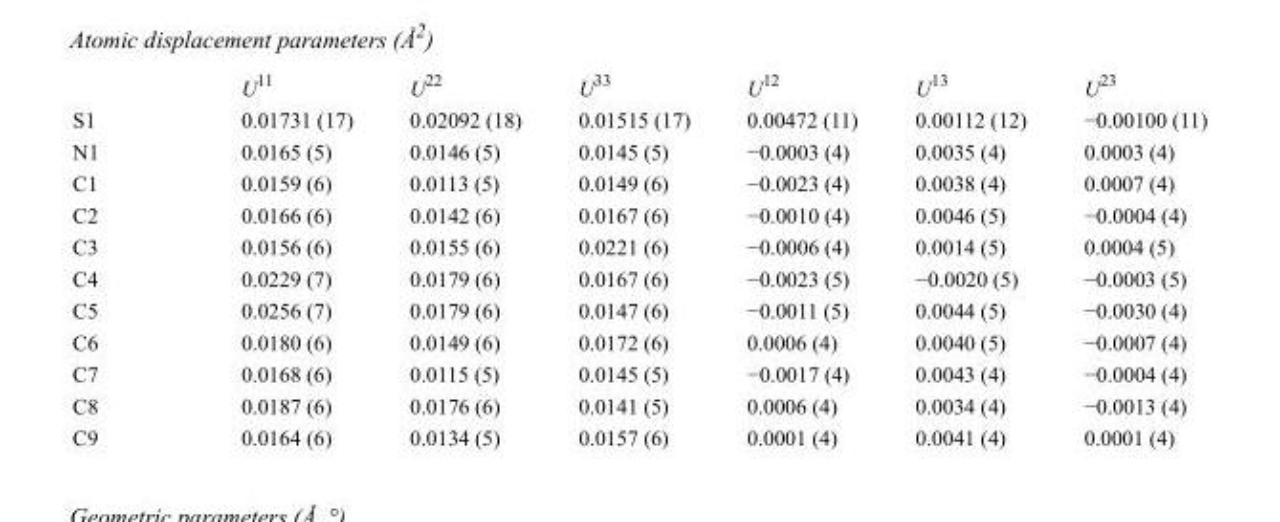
<table><thead><tr><td></td><td>U<sup>11</sup></td><td>U<sup>22</sup></td><td>U<sup>33</sup></td><td>U<sup>12</sup></td><td>U<sup>13</sup></td><td>U<sup>23</sup></td></tr></thead><tbody><tr><td>S1</td><td>0.01731 (17)</td><td>0.02092 (18)</td><td>0.01515 (17)</td><td>0.00472 (11)</td><td>0.00112 (12)</td><td>−0.00100 (11)</td></tr><tr><td>N1</td><td>0.0165 (5)</td><td>0.0146 (5)</td><td>0.0145 (5)</td><td>−0.0003 (4)</td><td>0.0035 (4)</td><td>0.0003 (4)</td></tr><tr><td>C1</td><td>0.0159 (6)</td><td>0.0113 (5)</td><td>0.0149 (6)</td><td>−0.0023 (4)</td><td>0.0038 (4)</td><td>0.0007 (4)</td></tr><tr><td>C2</td><td>0.0166 (6)</td><td>0.0142 (6)</td><td>0.0167 (6)</td><td>−0.0010 (4)</td><td>0.0046 (5)</td><td>−0.0004 (4)</td></tr><tr><td>C3</td><td>0.0156 (6)</td><td>0.0155 (6)</td><td>0.0221 (6)</td><td>−0.0006 (4)</td><td>0.0014 (5)</td><td>0.0004 (5)</td></tr><tr><td>C4</td><td>0.0229 (7)</td><td>0.0179 (6)</td><td>0.0167 (6)</td><td>−0.0023 (5)</td><td>−0.0020 (5)</td><td>−0.0003 (5)</td></tr><tr><td>C5</td><td>0.0256 (7)</td><td>0.0179 (6)</td><td>0.0147 (6)</td><td>−0.0011 (5)</td><td>0.0044 (5)</td><td>−0.0030 (4)</td></tr><tr><td>C6</td><td>0.0180 (6)</td><td>0.0149 (6)</td><td>0.0172 (6)</td><td>0.0006 (4)</td><td>0.0040 (5)</td><td>−0.0007 (4)</td></tr><tr><td>C7</td><td>0.0168 (6)</td><td>0.0115 (5)</td><td>0.0145 (5)</td><td>−0.0017 (4)</td><td>0.0043 (4)</td><td>−0.0004 (4)</td></tr><tr><td>C8</td><td>0.0187 (6)</td><td>0.0176 (6)</td><td>0.0141 (5)</td><td>0.0006 (4)</td><td>0.0034 (4)</td><td>−0.0013 (4)</td></tr><tr><td>C9</td><td>0.0164 (6)</td><td>0.0134 (5)</td><td>0.0157 (6)</td><td>0.0001 (4)</td><td>0.0041 (4)</td><td>0.0001 (4)</td></tr></tbody></table>